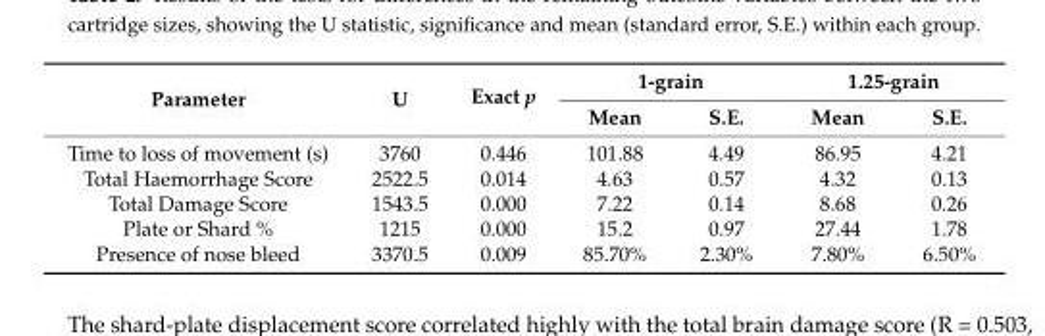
<table><thead><tr><td rowspan="2">Parameter</td><td rowspan="2">U</td><td rowspan="2">Exact p</td><td colspan="2">1-grain</td><td colspan="2">1.25-grain</td></tr><tr><td>Mean</td><td>S.E.</td><td>Mean</td><td>S.E.</td></tr></thead><tbody><tr><td>Time to loss of movement (s)</td><td>3760</td><td>0.446</td><td>101.88</td><td>4.49</td><td>86.95</td><td>4.21</td></tr><tr><td>Total Haemorrhage Score</td><td>2522.5</td><td>0.014</td><td>4.63</td><td>0.57</td><td>4.32</td><td>0.13</td></tr><tr><td>Total Damage Score</td><td>1543.5</td><td>0.000</td><td>7.22</td><td>0.14</td><td>8.68</td><td>0.26</td></tr><tr><td>Plate or Shard %</td><td>1215</td><td>0.000</td><td>15.2</td><td>0.97</td><td>27.44</td><td>1.78</td></tr><tr><td>Presence of nose bleed</td><td>3370.5</td><td>0.009</td><td>85.70%</td><td>2.30%</td><td>7.80%</td><td>6.50%</td></tr></tbody></table>